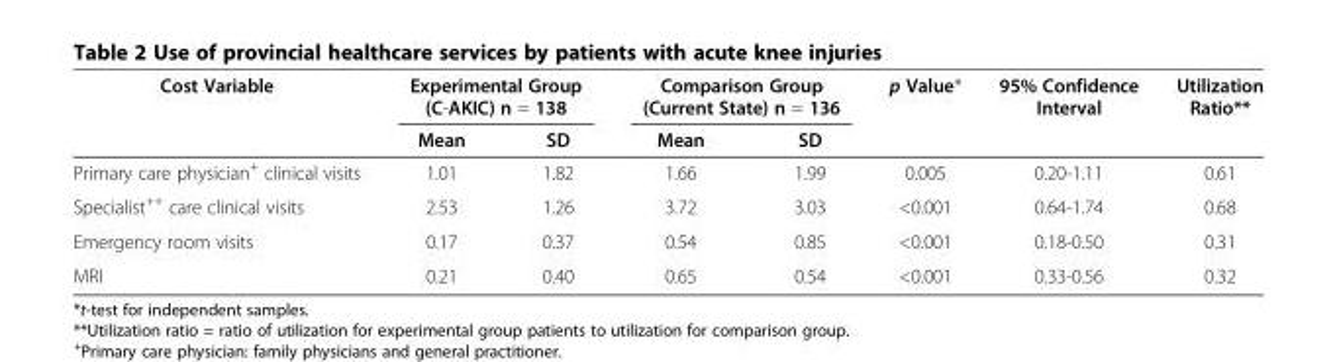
<table><thead><tr><td rowspan="2">Cost Variable</td><td colspan="2">Experimental Group (C-AKIC) n = 138</td><td colspan="2">Comparison Group (Current State) n = 136</td><td rowspan="2">p Value*</td><td rowspan="2">95% Confidence Interval</td><td rowspan="2">Utilization Ratio**</td></tr><tr><td>Mean</td><td>SD</td><td>Mean</td><td>SD</td></tr></thead><tbody><tr><td>Primary care physician<sup>+</sup> clinical visits</td><td>1.01</td><td>1.82</td><td>1.66</td><td>1.99</td><td>0.005</td><td>0.20-1.11</td><td>0.61</td></tr><tr><td>Specialist<sup>++</sup> care clinical visits</td><td>2.53</td><td>1.26</td><td>3.72</td><td>3.03</td><td>&lt;0.001</td><td>0.64-1.74</td><td>0.68</td></tr><tr><td>Emergency room visits</td><td>0.17</td><td>0.37</td><td>0.54</td><td>0.85</td><td>&lt;0.001</td><td>0.18-0.50</td><td>0.31</td></tr><tr><td>MRI</td><td>0.21</td><td>0.40</td><td>0.65</td><td>0.54</td><td>&lt;0.001</td><td>0.33-0.56</td><td>0.32</td></tr></tbody></table>